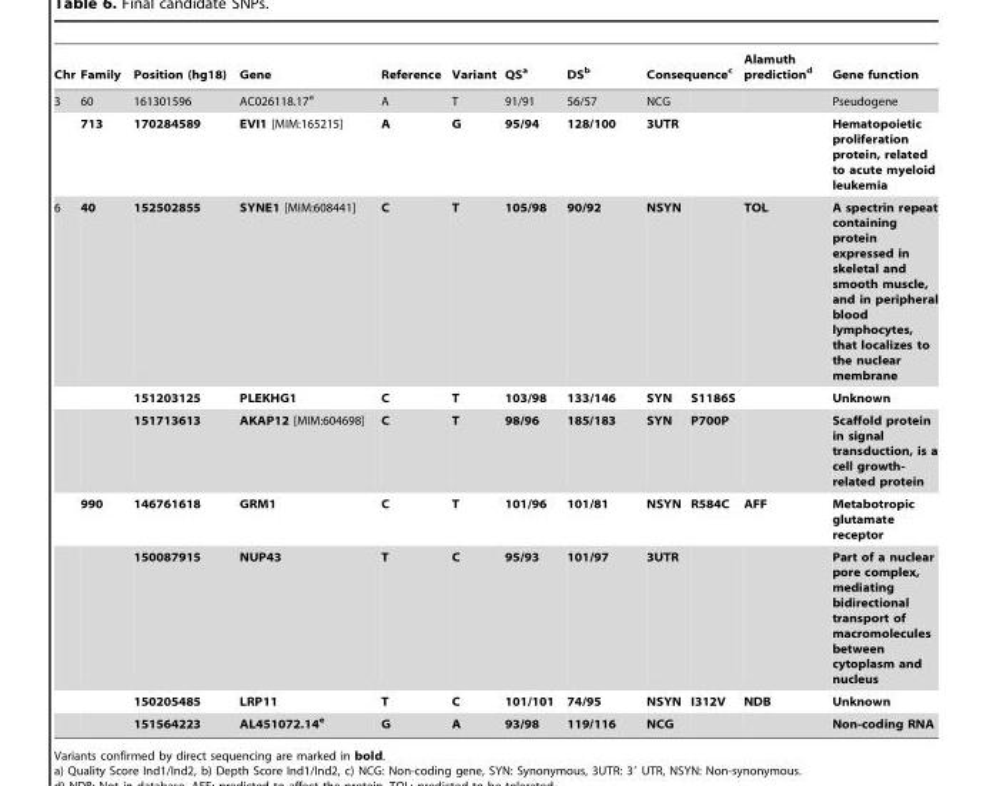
<table><thead><tr><td rowspan="2">Chr 3</td><td rowspan="2">Family 60</td><td rowspan="2">Position (hg18) 161301596</td><td rowspan="2">Gene AC026118.17<sup>e</sup></td><td rowspan="2">Reference A</td><td rowspan="2">Variant T</td><td rowspan="2">QS<sup>a</sup> 91/91</td><td rowspan="2">DS<sup>b</sup> 56/57</td><td colspan="2">Consequence<sup>c</sup></td><td rowspan="2">Alamuth prediction<sup>d</sup></td><td rowspan="2">Gene function Pseudogene</td></tr><tr><td>NCG</td><td></td></tr></thead><tbody><tr><td></td><td>713</td><td>170284589</td><td>EVI1 [MIM:165215]</td><td>A</td><td>G</td><td>95/94</td><td>128/100</td><td>3UTR</td><td></td><td></td><td>Hematopoietic proliferation protein, related to acute myeloid leukemia</td></tr><tr><td rowspan="7">6</td><td>40</td><td>152502855</td><td>SYNE1 [MIM:608441]</td><td>C</td><td>T</td><td>105/98</td><td>90/92</td><td>NSYN</td><td></td><td>TOL</td><td>A spectrin repeat containing protein expressed in skeletal and smooth muscle, and in peripheral blood lymphocytes, that localizes to the nuclear membrane</td></tr><tr><td></td><td>151203125</td><td>PLEKHG1</td><td>C</td><td>T</td><td>103/98</td><td>133/146</td><td>SYN</td><td>S1186S</td><td></td><td>Unknown</td></tr><tr><td></td><td>151713613</td><td>AKAP12 [MIM:604698]</td><td>C</td><td>T</td><td>98/96</td><td>185/183</td><td>SYN</td><td>P700P</td><td></td><td>Scaffold protein in signal transduction, is a cell growth- related protein</td></tr><tr><td>990</td><td>146761618</td><td>GRM1</td><td>C</td><td>T</td><td>101/96</td><td>101/81</td><td>NSYN</td><td>R584C</td><td>AFF</td><td>Metabotropic glutamate receptor</td></tr><tr><td></td><td>150087915</td><td>NUP43</td><td>T</td><td>C</td><td>95/93</td><td>101/97</td><td>3UTR</td><td></td><td></td><td>Part of a nuclear pore complex, mediating bidirectional transport of macromolecules between cytoplasm and nucleus</td></tr><tr><td></td><td>150205485</td><td>LRP11</td><td>T</td><td>C</td><td>101/101</td><td>74/95</td><td>NSYN</td><td>I312V</td><td>NDB</td><td>Unknown</td></tr><tr><td></td><td>151564223</td><td>AL451072.14<sup>e</sup></td><td>G</td><td>A</td><td>93/98</td><td>119/116</td><td>NCG</td><td></td><td></td><td>Non-coding RNA</td></tr></tbody></table>